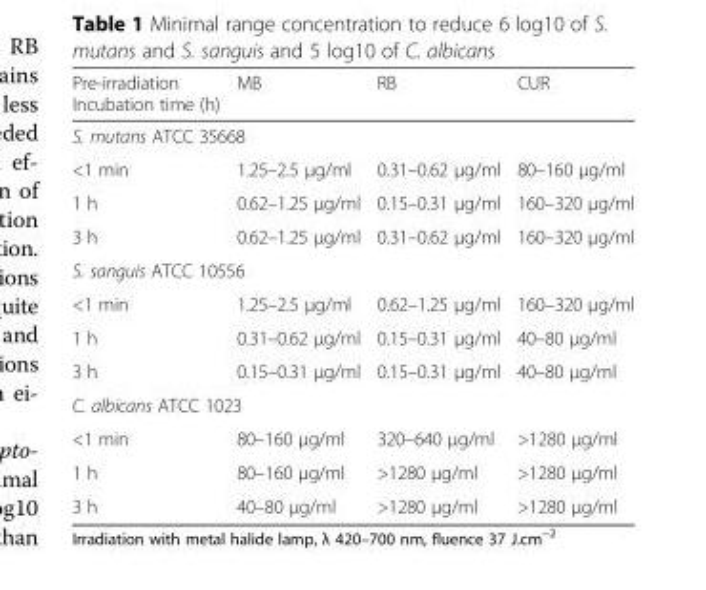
<table><thead><tr><td>Pre-irradiation Incubation time (h)</td><td>MB</td><td>RB</td><td>CUR</td></tr></thead><tbody><tr><td colspan="4">S. mutans ATCC 35668</td></tr><tr><td>&lt;1 min</td><td>1.25–2.5 μg/ml</td><td>0.31–0.62 μg/ml</td><td>80–160 μg/ml</td></tr><tr><td>1 h</td><td>0.62–1.25 μg/ml</td><td>0.15–0.31 μg/ml</td><td>160–320 μg/ml</td></tr><tr><td>3 h</td><td>0.62–1.25 μg/ml</td><td>0.31–0.62 μg/ml</td><td>160–320 μg/ml</td></tr><tr><td colspan="4">S. sanguis ATCC 10556</td></tr><tr><td>&lt;1 min</td><td>1.25–2.5 μg/ml</td><td>0.62–1.25 μg/ml</td><td>160–320 μg/ml</td></tr><tr><td>1 h</td><td>0.31–0.62 μg/ml</td><td>0.15–0.31 μg/ml</td><td>40–80 μg/ml</td></tr><tr><td>3 h</td><td>0.15–0.31 μg/ml</td><td>0.15–0.31 μg/ml</td><td>40–80 μg/ml</td></tr><tr><td colspan="4">C. albicans ATCC 1023</td></tr><tr><td>&lt;1 min</td><td>80–160 μg/ml</td><td>320–640 μg/ml</td><td>&gt;1280 μg/ml</td></tr><tr><td>1 h</td><td>80–160 μg/ml</td><td>&gt;1280 μg/ml</td><td>&gt;1280 μg/ml</td></tr><tr><td>3 h</td><td>40–80 μg/ml</td><td>&gt;1280 μg/ml</td><td>&gt;1280 μg/ml</td></tr></tbody></table>